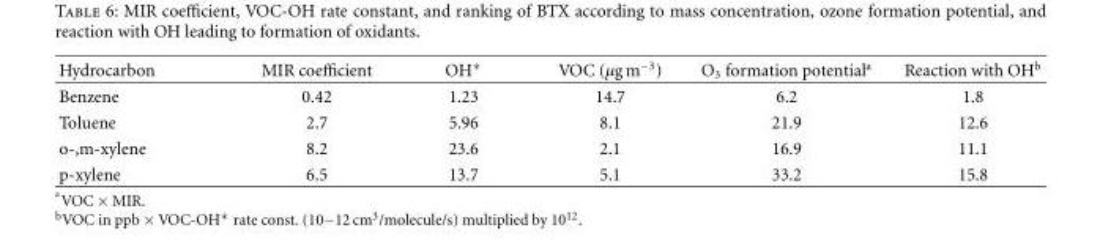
<table><thead><tr><td>Hydrocarbon</td><td>MIR coefficient</td><td>OH∗</td><td>VOC (µg m<sup>−3</sup>)</td><td>O<sub>3</sub> formation potential<sup>a</sup></td><td>Reaction with OH<sup>b</sup></td></tr></thead><tbody><tr><td>Benzene</td><td>0.42</td><td>1.23</td><td>14.7</td><td>6.2</td><td>1.8</td></tr><tr><td>Toluene</td><td>2.7</td><td>5.96</td><td>8.1</td><td>21.9</td><td>12.6</td></tr><tr><td>o-,m-xylene</td><td>8.2</td><td>23.6</td><td>2.1</td><td>16.9</td><td>11.1</td></tr><tr><td>p-xylene</td><td>6.5</td><td>13.7</td><td>5.1</td><td>33.2</td><td>15.8</td></tr></tbody></table>